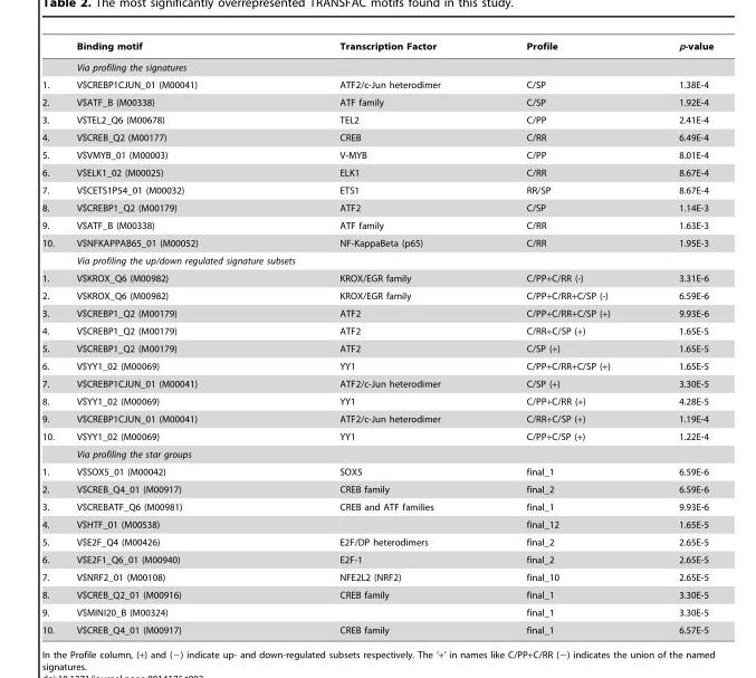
<table><thead><tr><td></td><td>Binding motif</td><td>Transcription Factor</td><td>Profile</td><td>p-value</td></tr></thead><tbody><tr><td></td><td colspan="4">Via profiling the signatures</td></tr><tr><td>1.</td><td>V$CREBP1CJUN_01 (M00041)</td><td>ATF2/c-Jun heterodimer</td><td>C/SP</td><td>1.38E-4</td></tr><tr><td>2.</td><td>V$ATF_B (M00338)</td><td>ATF family</td><td>C/SP</td><td>1.92E-4</td></tr><tr><td>3.</td><td>V$TEL2_Q6 (M00678)</td><td>TEL2</td><td>C/PP</td><td>2.41E-4</td></tr><tr><td>4.</td><td>V$CREB_Q2 (M00177)</td><td>CREB</td><td>C/RR</td><td>6.49E-4</td></tr><tr><td>5.</td><td>V$VMYB_01 (M00003)</td><td>V-MYB</td><td>C/PP</td><td>8.01E-4</td></tr><tr><td>6.</td><td>V$ELK1_02 (M00025)</td><td>ELK1</td><td>C/RR</td><td>8.67E-4</td></tr><tr><td>7.</td><td>V$CETS1P54_01 (M00032)</td><td>ETS1</td><td>RR/SP</td><td>8.67E-4</td></tr><tr><td>8.</td><td>V$CREBP1_Q2 (M00179)</td><td>ATF2</td><td>C/SP</td><td>1.14E-3</td></tr><tr><td>9.</td><td>V$ATF_B (M00338)</td><td>ATF family</td><td>C/RR</td><td>1.63E-3</td></tr><tr><td rowspan="2">10.</td><td>V$NFKAPPAB65_01 (M00052)</td><td>NF-KappaBeta (p65)</td><td>C/RR</td><td>1.95E-3</td></tr><tr><td colspan="4">Via profiling the up/down regulated signature subsets</td></tr><tr><td>1.</td><td>V$KROX_Q6 (M00982)</td><td>KROX/EGR family</td><td>C/PP+C/RR (-)</td><td>3.31E-6</td></tr><tr><td>2.</td><td>V$KROX_Q6 (M00982)</td><td>KROX/EGR family</td><td>C/PP+C/RR+C/SP (-)</td><td>6.59E-6</td></tr><tr><td>3.</td><td>V$CREBP1_Q2 (M00179)</td><td>ATF2</td><td>C/PP+C/RR+C/SP (+)</td><td>9.93E-6</td></tr><tr><td>4.</td><td>V$CREBP1_Q2 (M00179)</td><td>ATF2</td><td>C/RR+C/SP (+)</td><td>1.65E-5</td></tr><tr><td>5.</td><td>V$CREBP1_Q2 (M00179)</td><td>ATF2</td><td>C/SP (+)</td><td>1.65E-5</td></tr><tr><td>6.</td><td>V$YY1_02 (M00069)</td><td>YY1</td><td>C/PP+C/RR+C/SP (+)</td><td>1.65E-5</td></tr><tr><td>7.</td><td>V$CREBP1CJUN_01 (M00041)</td><td>ATF2/c-Jun heterodimer</td><td>C/SP (+)</td><td>3.30E-5</td></tr><tr><td>8.</td><td>V$YY1_02 (M00069)</td><td>YY1</td><td>C/PP+C/RR (+)</td><td>4.28E-5</td></tr><tr><td>9.</td><td>V$CREBP1CJUN_01 (M00041)</td><td>ATF2/c-Jun heterodimer</td><td>C/RR+C/SP (+)</td><td>1.19E-4</td></tr><tr><td rowspan="2">10.</td><td>V$YY1_02 (M00069)</td><td>YY1</td><td>C/PP+C/SP (+)</td><td>1.22E-4</td></tr><tr><td colspan="4">Via profiling the star groups</td></tr><tr><td>1.</td><td>V$SOX5_01 (M00042)</td><td>SOX5</td><td>final_1</td><td>6.59E-6</td></tr><tr><td>2.</td><td>V$CREB_Q4_01 (M00917)</td><td>CREB family</td><td>final_2</td><td>6.59E-6</td></tr><tr><td>3.</td><td>V$CREBATF_Q6 (M00981)</td><td>CREB and ATF families</td><td>final_1</td><td>9.93E-6</td></tr><tr><td>4.</td><td>V$HTF_01 (M00538)</td><td></td><td>final_12</td><td>1.65E-5</td></tr><tr><td>5.</td><td>V$E2F_Q4 (M00426)</td><td>E2F/DP heterodimers</td><td>final_2</td><td>2.65E-5</td></tr><tr><td>6.</td><td>V$E2F1_Q6_01 (M00940)</td><td>E2F-1</td><td>final_2</td><td>2.65E-5</td></tr><tr><td>7.</td><td>V$NRF2_01 (M00108)</td><td>NFE2L2 (NRF2)</td><td>final_10</td><td>2.65E-5</td></tr><tr><td>8.</td><td>V$CREB_Q2_01 (M00916)</td><td>CREB family</td><td>final_1</td><td>3.30E-5</td></tr><tr><td>9.</td><td>V$MINI20_B (M00324)</td><td></td><td>final_1</td><td>3.30E-5</td></tr><tr><td>10.</td><td>V$CREB_Q4_01 (M00917)</td><td>CREB family</td><td>final_1</td><td>6.57E-5</td></tr></tbody></table>